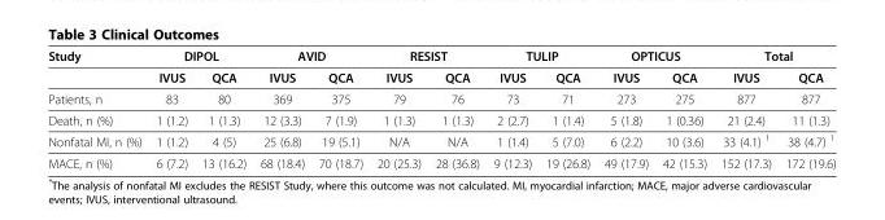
<table><thead><tr><td rowspan="2">Study</td><td colspan="2">DIPOL</td><td colspan="2">AVID</td><td colspan="2">RESIST</td><td colspan="2">TULIP</td><td colspan="2">OPTICUS</td><td colspan="2">Total</td></tr><tr><td>IVUS</td><td>QCA</td><td>IVUS</td><td>QCA</td><td>IVUS</td><td>QCA</td><td>IVUS</td><td>QCA</td><td>IVUS</td><td>QCA</td><td>IVUS</td><td>QCA</td></tr></thead><tbody><tr><td>Patients, n</td><td>83</td><td>80</td><td>369</td><td>375</td><td>79</td><td>76</td><td>73</td><td>71</td><td>273</td><td>275</td><td>877</td><td>877</td></tr><tr><td>Death, n (%)</td><td>1 (1.2)</td><td>1 (1.3)</td><td>12 (3.3)</td><td>7 (1.9)</td><td>1 (1.3)</td><td>1 (1.3)</td><td>2 (2.7)</td><td>1 (1.4)</td><td>5 (1.8)</td><td>1 (0.36)</td><td>21 (2.4)</td><td>11 (1.3)</td></tr><tr><td>Nonfatal MI, n (%)</td><td>1 (1.2)</td><td>4 (5)</td><td>25 (6.8)</td><td>19 (5.1)</td><td>N/A</td><td>N/A</td><td>1 (1.4)</td><td>5 (7.0)</td><td>6 (2.2)</td><td>10 (3.6)</td><td>33 (4.1) <sup>1</sup></td><td>38 (4.7) <sup>1</sup></td></tr><tr><td>MACE, n (%)</td><td>6 (7.2)</td><td>13 (16.2)</td><td>68 (18.4)</td><td>70 (18.7)</td><td>20 (25.3)</td><td>28 (36.8)</td><td>9 (12.3)</td><td>19 (26.8)</td><td>49 (17.9)</td><td>42 (15.3)</td><td>152 (17.3)</td><td>172 (19.6)</td></tr></tbody></table>